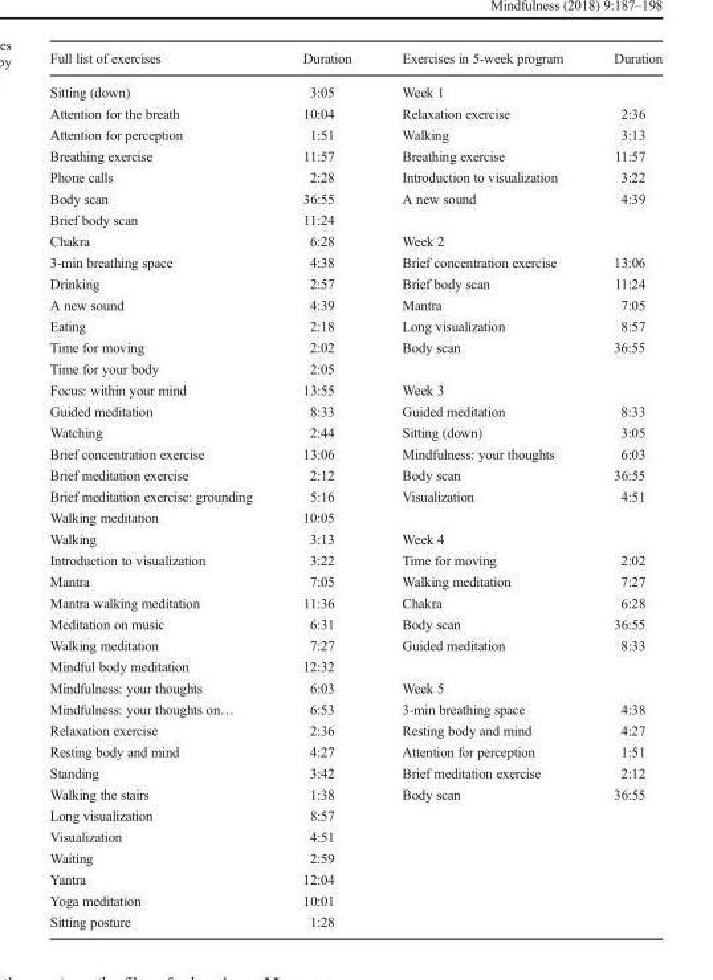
<table><thead><tr><td>Full list of exercises</td><td>Duration</td><td>Exercises in 5-week program</td><td>Duration</td></tr></thead><tbody><tr><td>Sitting (down)</td><td>3:05</td><td>Week 1</td><td></td></tr><tr><td>Attention for the breath</td><td>10:04</td><td>Relaxation exercise</td><td>2:36</td></tr><tr><td>Attention for perception</td><td>1:51</td><td>Walking</td><td>3:13</td></tr><tr><td>Breathing exercise</td><td>11:57</td><td>Breathing exercise</td><td>11:57</td></tr><tr><td>Phone calls</td><td>2:28</td><td>Introduction to visualization</td><td>3:22</td></tr><tr><td>Body scan</td><td>36:55</td><td>A new sound</td><td>4:39</td></tr><tr><td>Brief body scan</td><td>11:24</td><td></td><td></td></tr><tr><td>Chakra</td><td>6:28</td><td>Week 2</td><td></td></tr><tr><td>3-min breathing space</td><td>4:38</td><td>Brief concentration exercise</td><td>13:06</td></tr><tr><td>Drinking</td><td>2:57</td><td>Brief body scan</td><td>11:24</td></tr><tr><td>A new sound</td><td>4:39</td><td>Mantra</td><td>7:05</td></tr><tr><td>Eating</td><td>2:18</td><td>Long visualization</td><td>8:57</td></tr><tr><td>Time for moving</td><td>2:02</td><td>Body scan</td><td>36:55</td></tr><tr><td>Time for your body</td><td>2:05</td><td></td><td></td></tr><tr><td>Focus: within your mind</td><td>13:55</td><td>Week 3</td><td></td></tr><tr><td>Guided meditation</td><td>8:33</td><td>Guided meditation</td><td>8:33</td></tr><tr><td>Watching</td><td>2:44</td><td>Sitting (down)</td><td>3:05</td></tr><tr><td>Brief concentration exercise</td><td>13:06</td><td>Mindfulness: your thoughts</td><td>6:03</td></tr><tr><td>Brief meditation exercise</td><td>2:12</td><td>Body scan</td><td>36:55</td></tr><tr><td>Brief meditation exercise: grounding</td><td>5:16</td><td>Visualization</td><td>4:51</td></tr><tr><td>Walking meditation</td><td>10:05</td><td></td><td></td></tr><tr><td>Walking</td><td>3:13</td><td>Week 4</td><td></td></tr><tr><td>Introduction to visualization</td><td>3:22</td><td>Time for moving</td><td>2:02</td></tr><tr><td>Mantra</td><td>7:05</td><td>Walking meditation</td><td>7:27</td></tr><tr><td>Mantra walking meditation</td><td>11:36</td><td>Chakra</td><td>6:28</td></tr><tr><td>Meditation on music</td><td>6:31</td><td>Body scan</td><td>36:55</td></tr><tr><td>Walking meditation</td><td>7:27</td><td>Guided meditation</td><td>8:33</td></tr><tr><td>Mindful body meditation</td><td>12:32</td><td></td><td></td></tr><tr><td>Mindfulness: your thoughts</td><td>6:03</td><td>Week 5</td><td></td></tr><tr><td>Mindfulness: your thoughts on…</td><td>6:53</td><td>3-min breathing space</td><td>4:38</td></tr><tr><td>Relaxation exercise</td><td>2:36</td><td>Resting body and mind</td><td>4:27</td></tr><tr><td>Resting body and mind</td><td>4:27</td><td>Attention for perception</td><td>1:51</td></tr><tr><td>Standing</td><td>3:42</td><td>Brief meditation exercise</td><td>2:12</td></tr><tr><td>Walking the stairs</td><td>1:38</td><td>Body scan</td><td>36:55</td></tr><tr><td>Long visualization</td><td>8:57</td><td></td><td></td></tr><tr><td>Visualization</td><td>4:51</td><td></td><td></td></tr><tr><td>Waiting</td><td>2:59</td><td></td><td></td></tr><tr><td>Yantra</td><td>12:04</td><td></td><td></td></tr><tr><td>Yoga meditation</td><td>10:01</td><td></td><td></td></tr><tr><td>Sitting posture</td><td>1:28</td><td></td><td></td></tr></tbody></table>